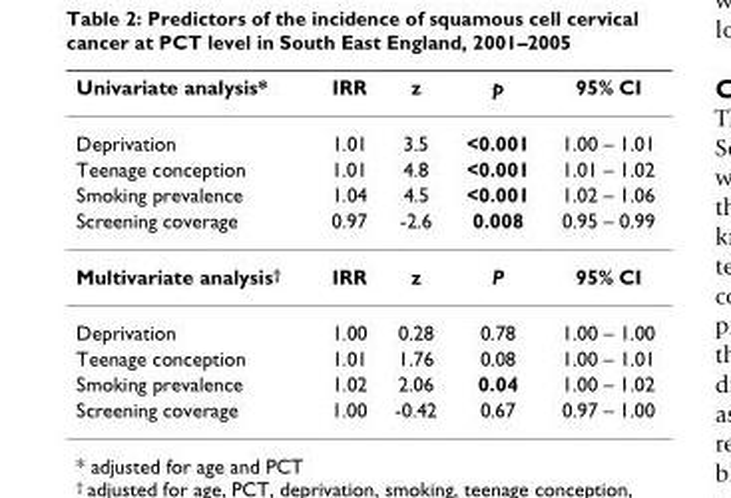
<table><thead><tr><td>Univariate analysis*</td><td>IRR</td><td>z</td><td>p</td><td>95% CI</td></tr></thead><tbody><tr><td>Deprivation</td><td>1.01</td><td>3.5</td><td>&lt;0.001</td><td>1.00 – 1.01</td></tr><tr><td>Teenage conception</td><td>1.01</td><td>4.8</td><td>&lt;0.001</td><td>1.01 – 1.02</td></tr><tr><td>Smoking prevalence</td><td>1.04</td><td>4.5</td><td>&lt;0.001</td><td>1.02 – 1.06</td></tr><tr><td>Screening coverage</td><td>0.97</td><td>-2.6</td><td>0.008</td><td>0.95 – 0.99</td></tr><tr><td>Multivariate analysis<sup>†</sup></td><td>IRR</td><td>z</td><td>P</td><td>95% CI</td></tr><tr><td>Deprivation</td><td>1.00</td><td>0.28</td><td>0.78</td><td>1.00 – 1.00</td></tr><tr><td>Teenage conception</td><td>1.01</td><td>1.76</td><td>0.08</td><td>1.00 – 1.01</td></tr><tr><td>Smoking prevalence</td><td>1.02</td><td>2.06</td><td>0.04</td><td>1.00 – 1.02</td></tr><tr><td>Screening coverage</td><td>1.00</td><td>-0.42</td><td>0.67</td><td>0.97 – 1.00</td></tr></tbody></table>